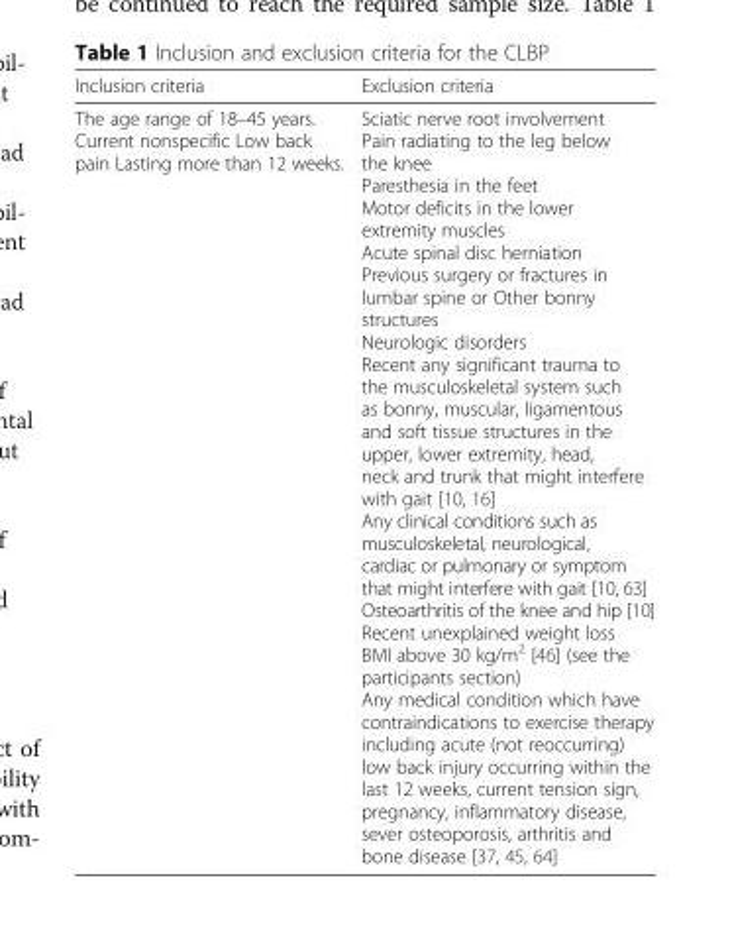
<table><thead><tr><td>Inclusion criteria</td><td>Exclusion criteria</td></tr></thead><tbody><tr><td>The age range of 18–45 years. Current nonspecific Low back pain Lasting more than 12 weeks.</td><td>Sciatic nerve root involvement Pain radiating to the leg below the knee Paresthesia in the feet Motor deficits in the lower extremity muscles Acute spinal disc herniation Previous surgery or fractures in lumbar spine or Other bonny structures Neurologic disorders Recent any significant trauma to the musculoskeletal system such as bonny, muscular, ligamentous and soft tissue structures in the upper, lower extremity, head, neck and trunk that might interfere with gait [10, 16] Any clinical conditions such as musculoskeletal, neurological, cardiac or pulmonary or symptom that might interfere with gait [10, 63] Osteoarthritis of the knee and hip [10] Recent unexplained weight loss BMI above 30 kg/m<sup>2</sup> [46] (see the participants section) Any medical condition which have contraindications to exercise therapy including acute (not reoccurring) low back injury occurring within the last 12 weeks, current tension sign, pregnancy, inflammatory disease, sever osteoporosis, arthritis and bone disease [37, 45, 64]</td></tr></tbody></table>